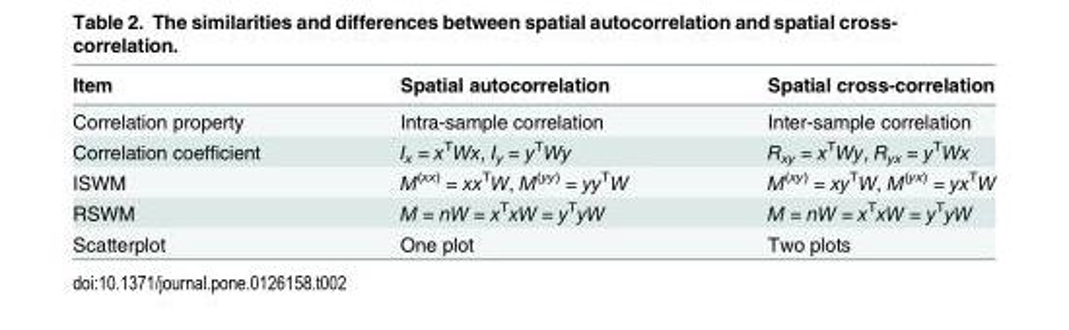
<table><thead><tr><td>Item</td><td>Spatial autocorrelation</td><td>Spatial cross-correlation</td></tr></thead><tbody><tr><td>Correlation property</td><td>Intra-sample correlation</td><td>Inter-sample correlation</td></tr><tr><td>Correlation coefficient</td><td>I<sub>x</sub> = x<sup>T</sup>Wx, I<sub>y</sub> = y<sup>T</sup>Wy</td><td>R<sub>xy</sub> = x<sup>T</sup>Wy, R<sub>yx</sub> = y<sup>T</sup>Wx</td></tr><tr><td>ISWM</td><td>M<sup>(xx)</sup> = xx<sup>T</sup>W, M<sup>(yy)</sup> = yy<sup>T</sup>W</td><td>M<sup>(xy)</sup> = xy<sup>T</sup>W, M<sup>(yx)</sup> = yx<sup>T</sup>W</td></tr><tr><td>RSWM</td><td>M = nW = x<sup>T</sup>xW = y<sup>T</sup>yW</td><td>M = nW = x<sup>T</sup>xW = y<sup>T</sup>yW</td></tr><tr><td>Scatterplot</td><td>One plot</td><td>Two plots</td></tr></tbody></table>